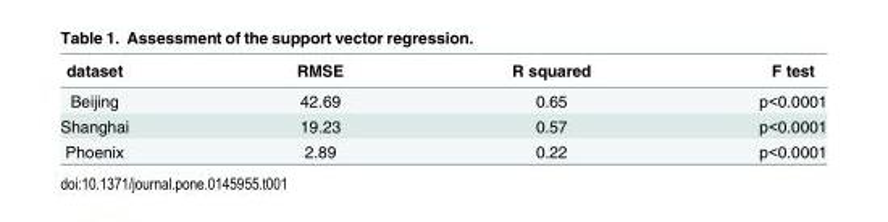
<table><thead><tr><td>dataset</td><td>RMSE</td><td>R squared</td><td>F test</td></tr></thead><tbody><tr><td>Beijing</td><td>42.69</td><td>0.65</td><td>p&lt;0.0001</td></tr><tr><td>Shanghai</td><td>19.23</td><td>0.57</td><td>p&lt;0.0001</td></tr><tr><td>Phoenix</td><td>2.89</td><td>0.22</td><td>p&lt;0.0001</td></tr></tbody></table>